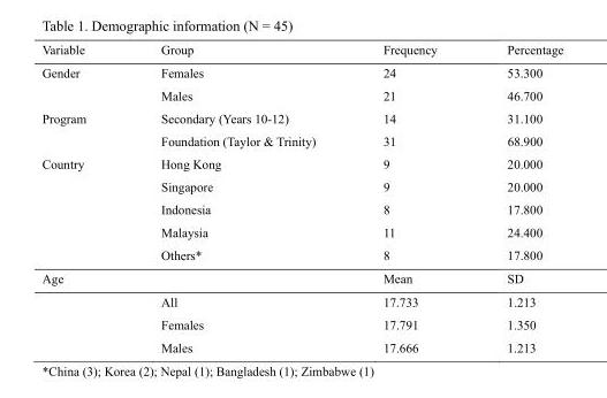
<table><thead><tr><td>Variable</td><td>Group</td><td>Frequency</td><td>Percentage</td></tr></thead><tbody><tr><td rowspan="2">Gender</td><td>Females</td><td>24</td><td>53.300</td></tr><tr><td>Males</td><td>21</td><td>46.700</td></tr><tr><td rowspan="2">Program</td><td>Secondary (Years 10-12)</td><td>14</td><td>31.100</td></tr><tr><td>Foundation (Taylor &amp; Trinity)</td><td>31</td><td>68.900</td></tr><tr><td rowspan="5">Country</td><td>Hong Kong</td><td>9</td><td>20.000</td></tr><tr><td>Singapore</td><td>9</td><td>20.000</td></tr><tr><td>Indonesia</td><td>8</td><td>17.800</td></tr><tr><td>Malaysia</td><td>11</td><td>24.400</td></tr><tr><td>Others*</td><td>8</td><td>17.800</td></tr><tr><td rowspan="4">Age</td><td></td><td>Mean</td><td>SD</td></tr><tr><td>All</td><td>17.733</td><td>1.213</td></tr><tr><td>Females</td><td>17.791</td><td>1.350</td></tr><tr><td>Males</td><td>17.666</td><td>1.213</td></tr></tbody></table>